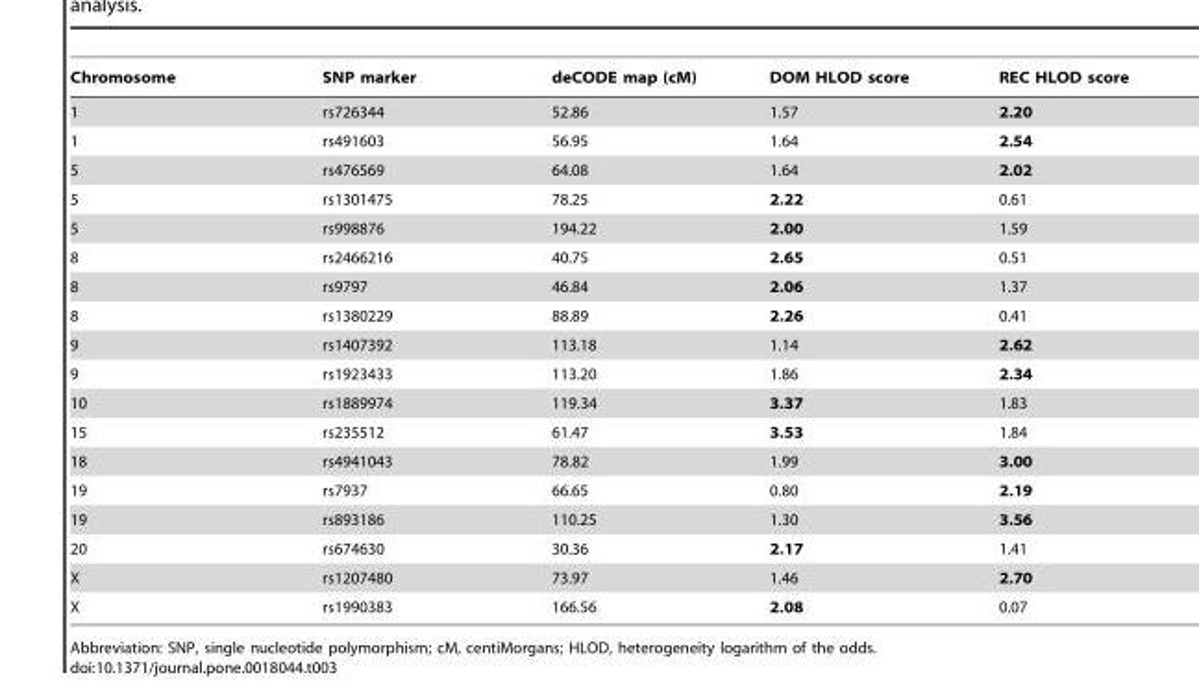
<table><thead><tr><td>Chromosome</td><td>SNP marker</td><td>deCODE map (cM)</td><td>DOM HLOD score</td><td>REC HLOD score</td></tr></thead><tbody><tr><td>1</td><td>rs726344</td><td>52.86</td><td>1.57</td><td>2.20</td></tr><tr><td>1</td><td>rs491603</td><td>56.95</td><td>1.64</td><td>2.54</td></tr><tr><td>5</td><td>rs476569</td><td>64.08</td><td>1.64</td><td>2.02</td></tr><tr><td>5</td><td>rs1301475</td><td>78.25</td><td>2.22</td><td>0.61</td></tr><tr><td>5</td><td>rs998876</td><td>194.22</td><td>2.00</td><td>1.59</td></tr><tr><td>8</td><td>rs2466216</td><td>40.75</td><td>2.65</td><td>0.51</td></tr><tr><td>8</td><td>rs9797</td><td>46.84</td><td>2.06</td><td>1.37</td></tr><tr><td>8</td><td>rs1380229</td><td>88.89</td><td>2.26</td><td>0.41</td></tr><tr><td>9</td><td>rs1407392</td><td>113.18</td><td>1.14</td><td>2.62</td></tr><tr><td>9</td><td>rs1923433</td><td>113.20</td><td>1.86</td><td>2.34</td></tr><tr><td>10</td><td>rs1889974</td><td>119.34</td><td>3.37</td><td>1.83</td></tr><tr><td>15</td><td>rs235512</td><td>61.47</td><td>3.53</td><td>1.84</td></tr><tr><td>18</td><td>rs4941043</td><td>78.82</td><td>1.99</td><td>3.00</td></tr><tr><td>19</td><td>rs7937</td><td>66.65</td><td>0.80</td><td>2.19</td></tr><tr><td>19</td><td>rs893186</td><td>110.25</td><td>1.30</td><td>3.56</td></tr><tr><td>20</td><td>rs674630</td><td>30.36</td><td>2.17</td><td>1.41</td></tr><tr><td>X</td><td>rs1207480</td><td>73.97</td><td>1.46</td><td>2.70</td></tr><tr><td>X</td><td>rs1990383</td><td>166.56</td><td>2.08</td><td>0.07</td></tr></tbody></table>